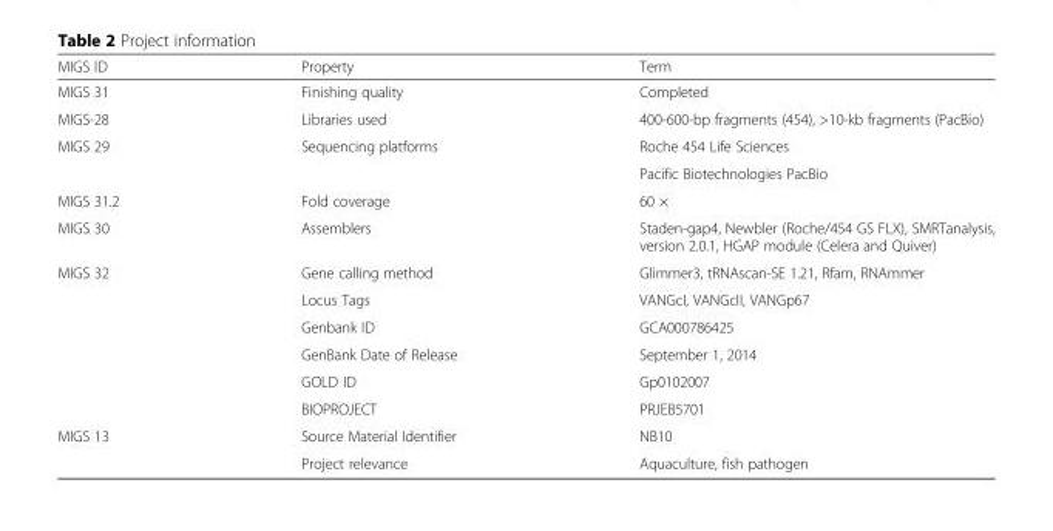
<table><thead><tr><td>MIGS ID</td><td>Property</td><td>Term</td></tr></thead><tbody><tr><td>MIGS 31</td><td>Finishing quality</td><td>Completed</td></tr><tr><td>MIGS-28</td><td>Libraries used</td><td>400-600-bp fragments (454), &gt;10-kb fragments (PacBio)</td></tr><tr><td rowspan="2">MIGS 29</td><td rowspan="2">Sequencing platforms</td><td>Roche 454 Life Sciences</td></tr><tr><td>Pacific Biotechnologies PacBio</td></tr><tr><td>MIGS 31.2</td><td>Fold coverage</td><td>60 ×</td></tr><tr><td>MIGS 30</td><td>Assemblers</td><td>Staden-gap4, Newbler (Roche/454 GS FLX), SMRTanalysis, version 2.0.1, HGAP module (Celera and Quiver)</td></tr><tr><td rowspan="6">MIGS 32</td><td>Gene calling method</td><td>Glimmer3, tRNAscan-SE 1.21, Rfam, RNAmmer</td></tr><tr><td>Locus Tags</td><td>VANGcI, VANGcII, VANGp67</td></tr><tr><td>Genbank ID</td><td>GCA000786425</td></tr><tr><td>GenBank Date of Release</td><td>September 1, 2014</td></tr><tr><td>GOLD ID</td><td>Gp0102007</td></tr><tr><td>BIOPROJECT</td><td>PRJEB5701</td></tr><tr><td rowspan="2">MIGS 13</td><td>Source Material Identifier</td><td>NB10</td></tr><tr><td>Project relevance</td><td>Aquaculture, fish pathogen</td></tr></tbody></table>